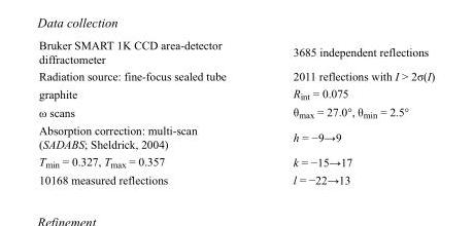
<table><tbody><tr><td>Bruker SMART 1K CCD area-detector diffractometer</td><td>3685 independent reflections</td></tr><tr><td>Radiation source: fine-focus sealed tube</td><td>2011 reflections with I &gt; 2σ(I)</td></tr><tr><td>graphite</td><td>R<sub>int</sub> = 0.075</td></tr><tr><td>ω scans</td><td>θ<sub>max</sub> = 27.0°, θ<sub>min</sub> = 2.5°</td></tr><tr><td>Absorption correction: multi-scan (SADABS; Sheldrick, 2004)</td><td>h = −9→9</td></tr><tr><td>T<sub>min</sub> = 0.327, T<sub>max</sub> = 0.357</td><td>k = −15→17</td></tr><tr><td>10168 measured reflections</td><td>l = −22→13</td></tr></tbody></table>